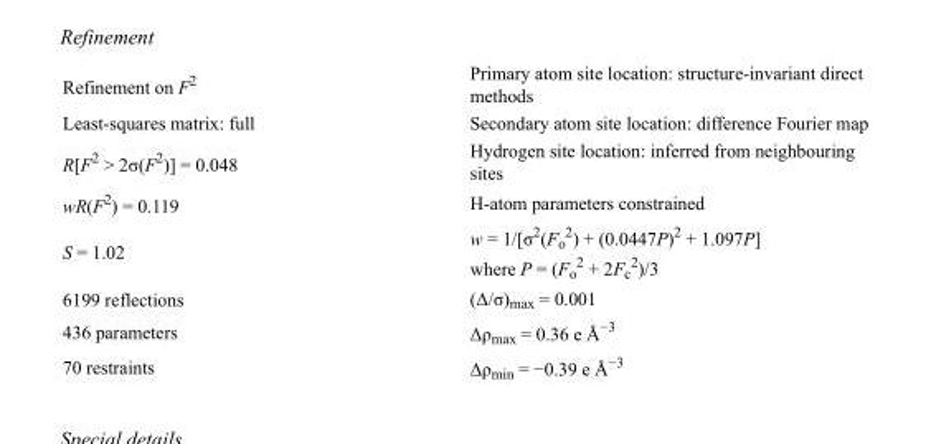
<table><tbody><tr><td>Refinement on F<sup>2</sup></td><td>Primary atom site location: structure-invariant direct methods</td></tr><tr><td>Least-squares matrix: full</td><td>Secondary atom site location: difference Fourier map</td></tr><tr><td>R[F<sup>2</sup> &gt; 2σ(F<sup>2</sup>)] = 0.048</td><td>Hydrogen site location: inferred from neighbouring sites</td></tr><tr><td>wR(F<sup>2</sup>) = 0.119</td><td>H-atom parameters constrained</td></tr><tr><td>S = 1.02</td><td>w = 1/[σ<sup>2</sup>(F<sub>o</sub> <sup>2</sup>) + (0.0447P)<sup>2</sup> + 1.097P] where P = (F<sub>o</sub> <sup>2</sup> + 2F<sub>c</sub> <sup>2</sup>)/3</td></tr><tr><td>6199 reflections</td><td>(Δ/σ)<sub>max</sub> = 0.001</td></tr><tr><td>436 parameters</td><td>Δρ<sub>max</sub> = 0.36 e Å<sup>−3</sup></td></tr><tr><td>70 restraints</td><td>Δρ<sub>min</sub> = −0.39 e Å<sup>−3</sup></td></tr></tbody></table>